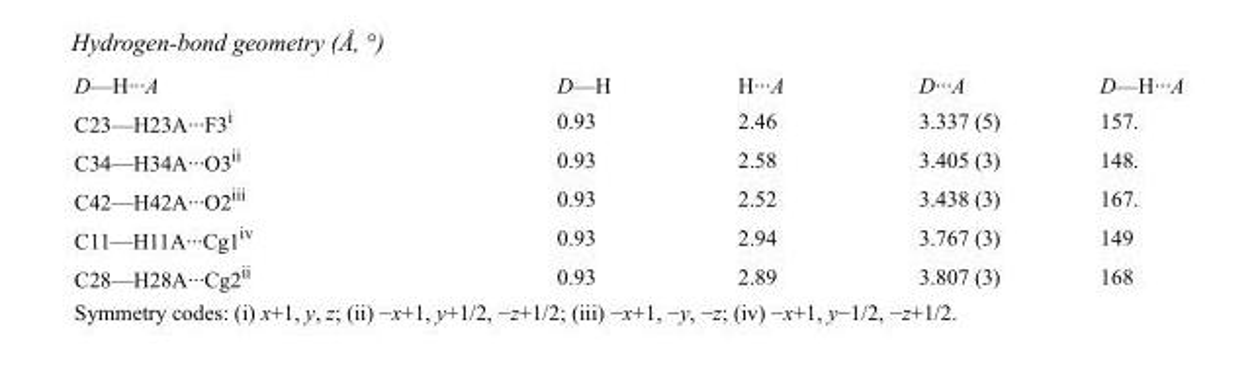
<table><tbody><tr><td>D—H···A</td><td>D—H</td><td>H···A</td><td>D···A</td><td>D—H···A</td></tr><tr><td>C23—H23A···F3<sup>i</sup></td><td>0.93</td><td>2.46</td><td>3.337 (5)</td><td>157.</td></tr><tr><td>C34—H34A···O3<sup>ii</sup></td><td>0.93</td><td>2.58</td><td>3.405 (3)</td><td>148.</td></tr><tr><td>C42—H42A···O2<sup>iii</sup></td><td>0.93</td><td>2.52</td><td>3.438 (3)</td><td>167.</td></tr><tr><td>C11—H11A···Cg1<sup>iv</sup></td><td>0.93</td><td>2.94</td><td>3.767 (3)</td><td>149</td></tr><tr><td>C28—H28A···Cg2<sup>ii</sup></td><td>0.93</td><td>2.89</td><td>3.807 (3)</td><td>168</td></tr></tbody></table>